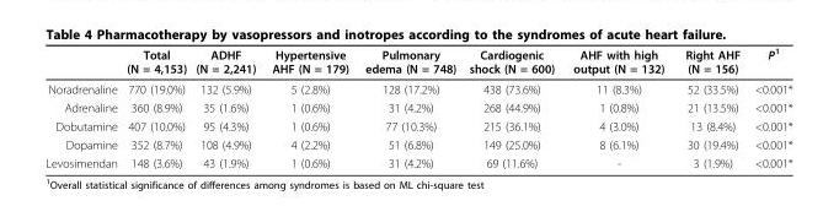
<table><thead><tr><td></td><td>Total (N = 4,153)</td><td>ADHF (N = 2,241)</td><td>Hypertensive AHF (N = 179)</td><td>Pulmonary edema (N = 748)</td><td>Cardiogenic shock (N = 600)</td><td>AHF with high output (N = 132)</td><td>Right AHF (N = 156)</td><td>P<sup>1</sup></td></tr></thead><tbody><tr><td>Noradrenaline</td><td>770 (19.0%)</td><td>132 (5.9%)</td><td>5 (2.8%)</td><td>128 (17.2%)</td><td>438 (73.6%)</td><td>11 (8.3%)</td><td>52 (33.5%)</td><td>&lt;0.001*</td></tr><tr><td>Adrenaline</td><td>360 (8.9%)</td><td>35 (1.6%)</td><td>1 (0.6%)</td><td>31 (4.2%)</td><td>268 (44.9%)</td><td>1 (0.8%)</td><td>21 (13.5%)</td><td>&lt;0.001*</td></tr><tr><td>Dobutamine</td><td>407 (10.0%)</td><td>95 (4.3%)</td><td>1 (0.6%)</td><td>77 (10.3%)</td><td>215 (36.1%)</td><td>4 (3.0%)</td><td>13 (8.4%)</td><td>&lt;0.001*</td></tr><tr><td>Dopamine</td><td>352 (8.7%)</td><td>108 (4.9%)</td><td>4 (2.2%)</td><td>51 (6.8%)</td><td>149 (25.0%)</td><td>8 (6.1%)</td><td>30 (19.4%)</td><td>&lt;0.001*</td></tr><tr><td>Levosimendan</td><td>148 (3.6%)</td><td>43 (1.9%)</td><td>1 (0.6%)</td><td>31 (4.2%)</td><td>69 (11.6%)</td><td>-</td><td>3 (1.9%)</td><td>&lt;0.001*</td></tr></tbody></table>